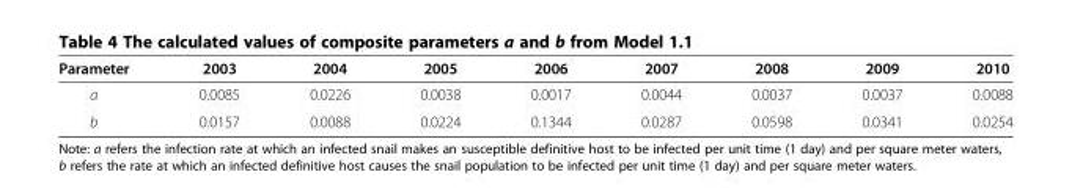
<table><thead><tr><td>Parameter</td><td>2003</td><td>2004</td><td>2005</td><td>2006</td><td>2007</td><td>2008</td><td>2009</td><td>2010</td></tr></thead><tbody><tr><td>a</td><td>0.0085</td><td>0.0226</td><td>0.0038</td><td>0.0017</td><td>0.0044</td><td>0.0037</td><td>0.0037</td><td>0.0088</td></tr><tr><td>b</td><td>0.0157</td><td>0.0088</td><td>0.0224</td><td>0.1344</td><td>0.0287</td><td>0.0598</td><td>0.0341</td><td>0.0254</td></tr></tbody></table>